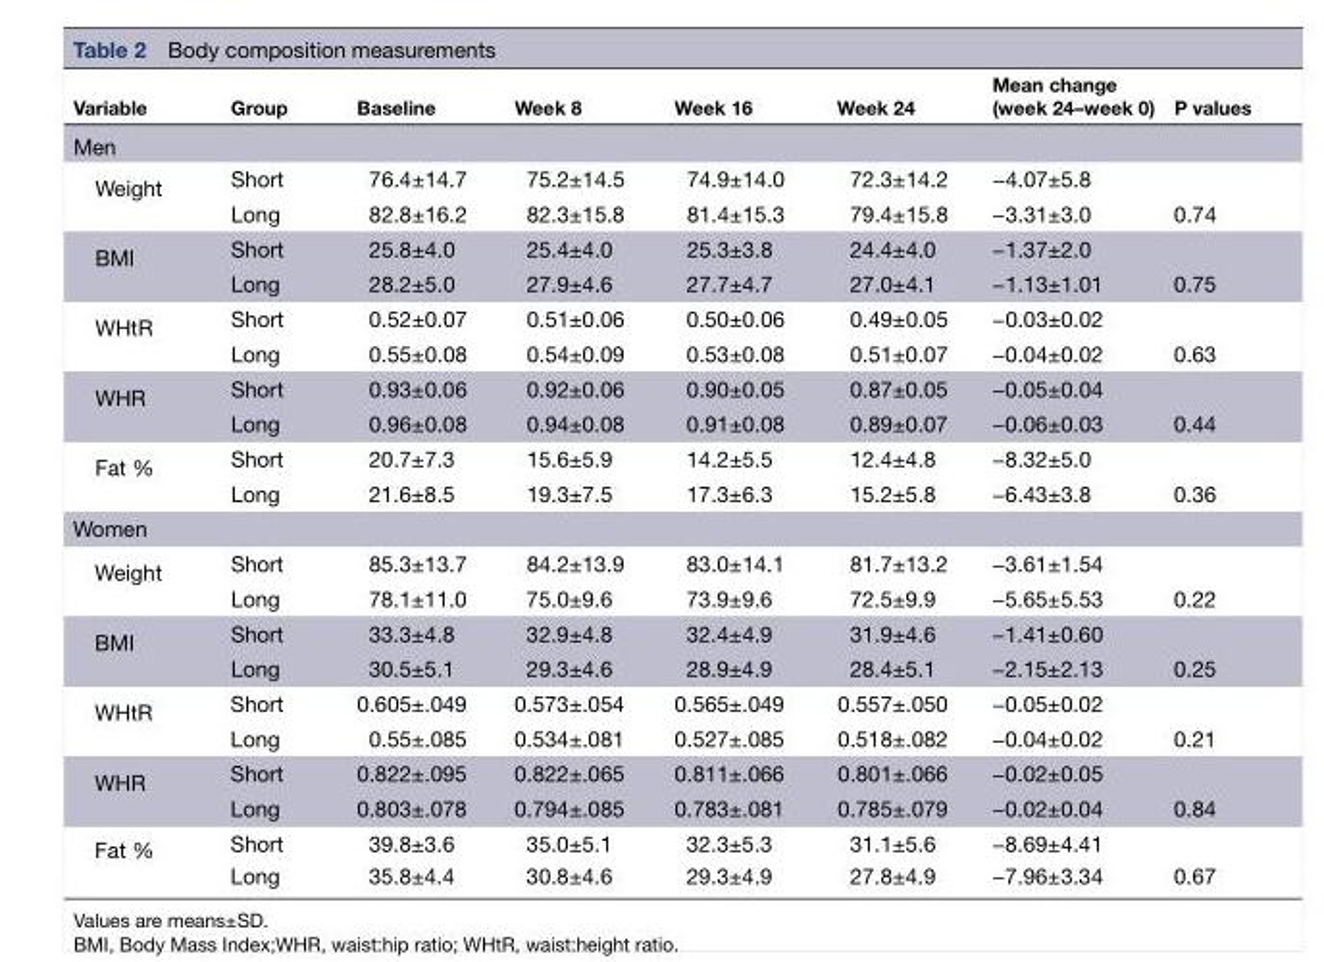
<table><thead><tr><td>Variable</td><td>Group</td><td>Baseline</td><td>Week 8</td><td>Week 16</td><td>Week 24</td><td>Mean change (week 24–week 0)</td><td>P values</td></tr></thead><tbody><tr><td colspan="8">Men</td></tr><tr><td rowspan="2">Weight</td><td>Short</td><td>76.4±14.7</td><td>75.2±14.5</td><td>74.9±14.0</td><td>72.3±14.2</td><td>−4.07±5.8</td><td rowspan="2">0.74</td></tr><tr><td>Long</td><td>82.8±16.2</td><td>82.3±15.8</td><td>81.4±15.3</td><td>79.4±15.8</td><td>−3.31±3.0</td></tr><tr><td rowspan="2">BMI</td><td>Short</td><td>25.8±4.0</td><td>25.4±4.0</td><td>25.3±3.8</td><td>24.4±4.0</td><td>−1.37±2.0</td><td rowspan="2">0.75</td></tr><tr><td>Long</td><td>28.2±5.0</td><td>27.9±4.6</td><td>27.7±4.7</td><td>27.0±4.1</td><td>−1.13±1.01</td></tr><tr><td rowspan="2">WHtR</td><td>Short</td><td>0.52±0.07</td><td>0.51±0.06</td><td>0.50±0.06</td><td>0.49±0.05</td><td>−0.03±0.02</td><td rowspan="2">0.63</td></tr><tr><td>Long</td><td>0.55±0.08</td><td>0.54±0.09</td><td>0.53±0.08</td><td>0.51±0.07</td><td>−0.04±0.02</td></tr><tr><td rowspan="2">WHR</td><td>Short</td><td>0.93±0.06</td><td>0.92±0.06</td><td>0.90±0.05</td><td>0.87±0.05</td><td>−0.05±0.04</td><td rowspan="2">0.44</td></tr><tr><td>Long</td><td>0.96±0.08</td><td>0.94±0.08</td><td>0.91±0.08</td><td>0.89±0.07</td><td>−0.06±0.03</td></tr><tr><td rowspan="2">Fat %</td><td>Short</td><td>20.7±7.3</td><td>15.6±5.9</td><td>14.2±5.5</td><td>12.4±4.8</td><td>−8.32±5.0</td><td rowspan="2">0.36</td></tr><tr><td>Long</td><td>21.6±8.5</td><td>19.3±7.5</td><td>17.3±6.3</td><td>15.2±5.8</td><td>−6.43±3.8</td></tr><tr><td colspan="8">Women</td></tr><tr><td rowspan="2">Weight</td><td>Short</td><td>85.3±13.7</td><td>84.2±13.9</td><td>83.0±14.1</td><td>81.7±13.2</td><td>−3.61±1.54</td><td rowspan="2">0.22</td></tr><tr><td>Long</td><td>78.1±11.0</td><td>75.0±9.6</td><td>73.9±9.6</td><td>72.5±9.9</td><td>−5.65±5.53</td></tr><tr><td rowspan="2">BMI</td><td>Short</td><td>33.3±4.8</td><td>32.9±4.8</td><td>32.4±4.9</td><td>31.9±4.6</td><td>−1.41±0.60</td><td rowspan="2">0.25</td></tr><tr><td>Long</td><td>30.5±5.1</td><td>29.3±4.6</td><td>28.9±4.9</td><td>28.4±5.1</td><td>−2.15±2.13</td></tr><tr><td rowspan="2">WHtR</td><td>Short</td><td>0.605±.049</td><td>0.573±.054</td><td>0.565±.049</td><td>0.557±.050</td><td>−0.05±0.02</td><td rowspan="2">0.21</td></tr><tr><td>Long</td><td>0.55±.085</td><td>0.534±.081</td><td>0.527±.085</td><td>0.518±.082</td><td>−0.04±0.02</td></tr><tr><td rowspan="2">WHR</td><td>Short</td><td>0.822±.095</td><td>0.822±.065</td><td>0.811±.066</td><td>0.801±.066</td><td>−0.02±0.05</td><td rowspan="2">0.84</td></tr><tr><td>Long</td><td>0.803±.078</td><td>0.794±.085</td><td>0.783±.081</td><td>0.785±.079</td><td>−0.02±0.04</td></tr><tr><td rowspan="2">Fat %</td><td>Short</td><td>39.8±3.6</td><td>35.0±5.1</td><td>32.3±5.3</td><td>31.1±5.6</td><td>−8.69±4.41</td><td rowspan="2">0.67</td></tr><tr><td>Long</td><td>35.8±4.4</td><td>30.8±4.6</td><td>29.3±4.9</td><td>27.8±4.9</td><td>−7.96±3.34</td></tr></tbody></table>